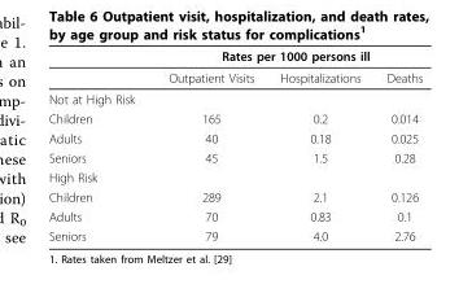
<table><thead><tr><td rowspan="2"></td><td colspan="3">Rates per 1000 persons ill</td></tr><tr><td>Outpatient Visits</td><td>Hospitalizations</td><td>Deaths</td></tr></thead><tbody><tr><td colspan="4">Not at High Risk</td></tr><tr><td>Children</td><td>165</td><td>0.2</td><td>0.014</td></tr><tr><td>Adults</td><td>40</td><td>0.18</td><td>0.025</td></tr><tr><td>Seniors</td><td>45</td><td>1.5</td><td>0.28</td></tr><tr><td colspan="4">High Risk</td></tr><tr><td>Children</td><td>289</td><td>2.1</td><td>0.126</td></tr><tr><td>Adults</td><td>70</td><td>0.83</td><td>0.1</td></tr><tr><td>Seniors</td><td>79</td><td>4.0</td><td>2.76</td></tr></tbody></table>